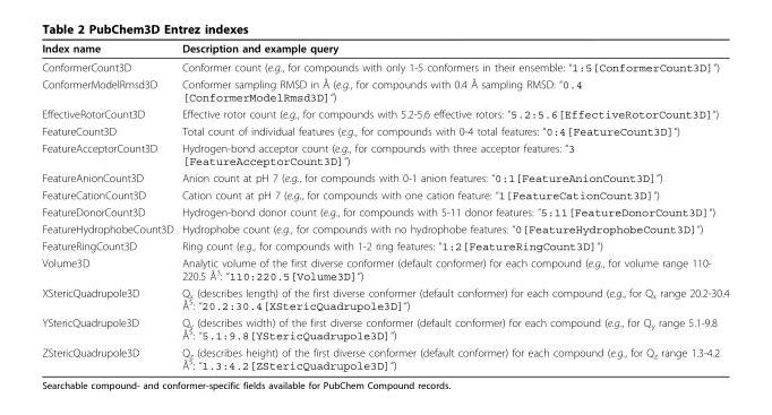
<table><thead><tr><td>Index name</td><td>Description and example query</td></tr></thead><tbody><tr><td>ConformerCount3D</td><td>Conformer count (e.g., for compounds with only 1-5 conformers in their ensemble: “1:5[ConformerCount3D]“)</td></tr><tr><td>ConformerModelRmsd3D</td><td>Conformer sampling RMSD in Å (e.g., for compounds with 0.4 Å sampling RMSD: “0.4 [ConformerModelRmsd3D]“)</td></tr><tr><td>EffectiveRotorCount3D</td><td>Effective rotor count (e.g., for compounds with 5.2-5.6 effective rotors: “5.2:5.6[EffectiveRotorCount3D]“)</td></tr><tr><td>FeatureCount3D</td><td>Total count of individual features (e.g., for compounds with 0-4 total features: “0:4[FeatureCount3D]“)</td></tr><tr><td>FeatureAcceptorCount3D</td><td>Hydrogen-bond acceptor count (e.g., for compounds with three acceptor features: “3 [FeatureAcceptorCount3D]“)</td></tr><tr><td>FeatureAnionCount3D</td><td>Anion count at pH 7 (e.g., for compounds with 0-1 anion features: “0:1[FeatureAnionCount3D]“)</td></tr><tr><td>FeatureCationCount3D</td><td>Cation count at pH 7 (e.g., for compounds with one cation feature: “1[FeatureCationCount3D]“)</td></tr><tr><td>FeatureDonorCount3D</td><td>Hydrogen-bond donor count (e.g., for compounds with 5-11 donor features: “5:11[FeatureDonorCount3D]“)</td></tr><tr><td>FeatureHydrophobeCount3D</td><td>Hydrophobe count (e.g., for compounds with no hydrophobe features: “0[FeatureHydrophobeCount3D]“)</td></tr><tr><td>FeatureRingCount3D</td><td>Ring count (e.g., for compounds with 1-2 ring features: “1:2[FeatureRingCount3D]“)</td></tr><tr><td>Volume3D</td><td>Analytic volume of the first diverse conformer (default conformer) for each compound (e.g., for volume range 110- 220.5 Å3: “110:220.5[Volume3D]“)</td></tr><tr><td>XStericQuadrupole3D</td><td>Qx (describes length) of the first diverse conformer (default conformer) for each compound (e.g., for Qx range 20.2-30.4 Å5: “20.2:30.4[XStericQuadrupole3D]“)</td></tr><tr><td>YStericQuadrupole3D</td><td>Qy (describes width) of the first diverse conformer (default conformer) for each compound (e.g., for Qy range 5.1-9.8 Å5: “5.1:9.8[YStericQuadrupole3D]“)</td></tr><tr><td>ZStericQuadrupole3D</td><td>Qz (describes height) of the first diverse conformer (default conformer) for each compound (e.g., for Qz range 1.3-4.2 Å5: “1.3:4.2[ZStericQuadrupole3D]“)</td></tr></tbody></table>